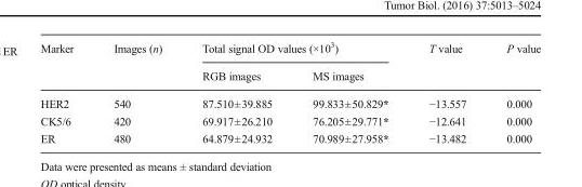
<table><thead><tr><td rowspan="2">Marker</td><td rowspan="2">Images (n)</td><td colspan="2">Total signal OD values (×10<sup>3</sup>)</td><td rowspan="2">T value</td><td rowspan="2">P value</td></tr><tr><td>RGB images</td><td>MS images</td></tr></thead><tbody><tr><td>HER2</td><td>540</td><td>87.510±39.885</td><td>99.833±50.829*</td><td>−13.557</td><td>0.000</td></tr><tr><td>CK5/6</td><td>420</td><td>69.917±26.210</td><td>76.205±29.771*</td><td>−12.641</td><td>0.000</td></tr><tr><td>ER</td><td>480</td><td>64.879±24.932</td><td>70.989±27.958*</td><td>−13.482</td><td>0.000</td></tr></tbody></table>